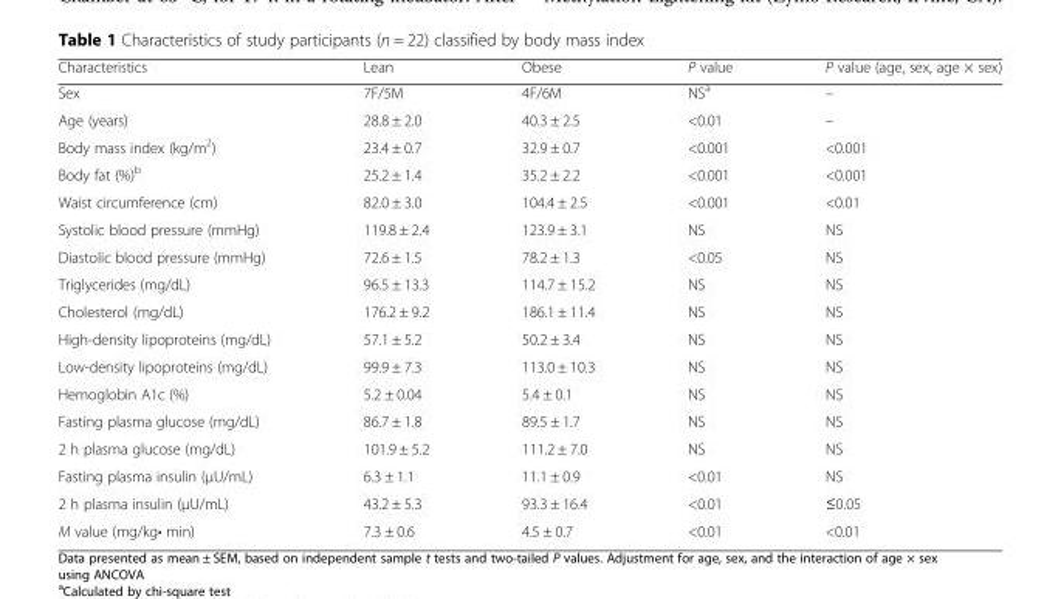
<table><thead><tr><td>Characteristics</td><td>Lean</td><td>Obese</td><td>P value</td><td>P value (age, sex, age × sex)</td></tr></thead><tbody><tr><td>Sex</td><td>7F/5M</td><td>4F/6M</td><td>NS<sup>a</sup></td><td>–</td></tr><tr><td>Age (years)</td><td>28.8 ± 2.0</td><td>40.3 ± 2.5</td><td>&lt;0.01</td><td>–</td></tr><tr><td>Body mass index (kg/m<sup>2</sup>)</td><td>23.4 ± 0.7</td><td>32.9 ± 0.7</td><td>&lt;0.001</td><td>&lt;0.001</td></tr><tr><td>Body fat (%)<sup>b</sup></td><td>25.2 ± 1.4</td><td>35.2 ± 2.2</td><td>&lt;0.001</td><td>&lt;0.001</td></tr><tr><td>Waist circumference (cm)</td><td>82.0 ± 3.0</td><td>104.4 ± 2.5</td><td>&lt;0.001</td><td>&lt;0.01</td></tr><tr><td>Systolic blood pressure (mmHg)</td><td>119.8 ± 2.4</td><td>123.9 ± 3.1</td><td>NS</td><td>NS</td></tr><tr><td>Diastolic blood pressure (mmHg)</td><td>72.6 ± 1.5</td><td>78.2 ± 1.3</td><td>&lt;0.05</td><td>NS</td></tr><tr><td>Triglycerides (mg/dL)</td><td>96.5 ± 13.3</td><td>114.7 ± 15.2</td><td>NS</td><td>NS</td></tr><tr><td>Cholesterol (mg/dL)</td><td>176.2 ± 9.2</td><td>186.1 ± 11.4</td><td>NS</td><td>NS</td></tr><tr><td>High-density lipoproteins (mg/dL)</td><td>57.1 ± 5.2</td><td>50.2 ± 3.4</td><td>NS</td><td>NS</td></tr><tr><td>Low-density lipoproteins (mg/dL)</td><td>99.9 ± 7.3</td><td>113.0 ± 10.3</td><td>NS</td><td>NS</td></tr><tr><td>Hemoglobin A1c (%)</td><td>5.2 ± 0.04</td><td>5.4 ± 0.1</td><td>NS</td><td>NS</td></tr><tr><td>Fasting plasma glucose (mg/dL)</td><td>86.7 ± 1.8</td><td>89.5 ± 1.7</td><td>NS</td><td>NS</td></tr><tr><td>2 h plasma glucose (mg/dL)</td><td>101.9 ± 5.2</td><td>111.2 ± 7.0</td><td>NS</td><td>NS</td></tr><tr><td>Fasting plasma insulin (μU/mL)</td><td>6.3 ± 1.1</td><td>11.1 ± 0.9</td><td>&lt;0.01</td><td>NS</td></tr><tr><td>2 h plasma insulin (μU/mL)</td><td>43.2 ± 5.3</td><td>93.3 ± 16.4</td><td>&lt;0.01</td><td>≤0.05</td></tr><tr><td>M value (mg/kg• min)</td><td>7.3 ± 0.6</td><td>4.5 ± 0.7</td><td>&lt;0.01</td><td>&lt;0.01</td></tr></tbody></table>